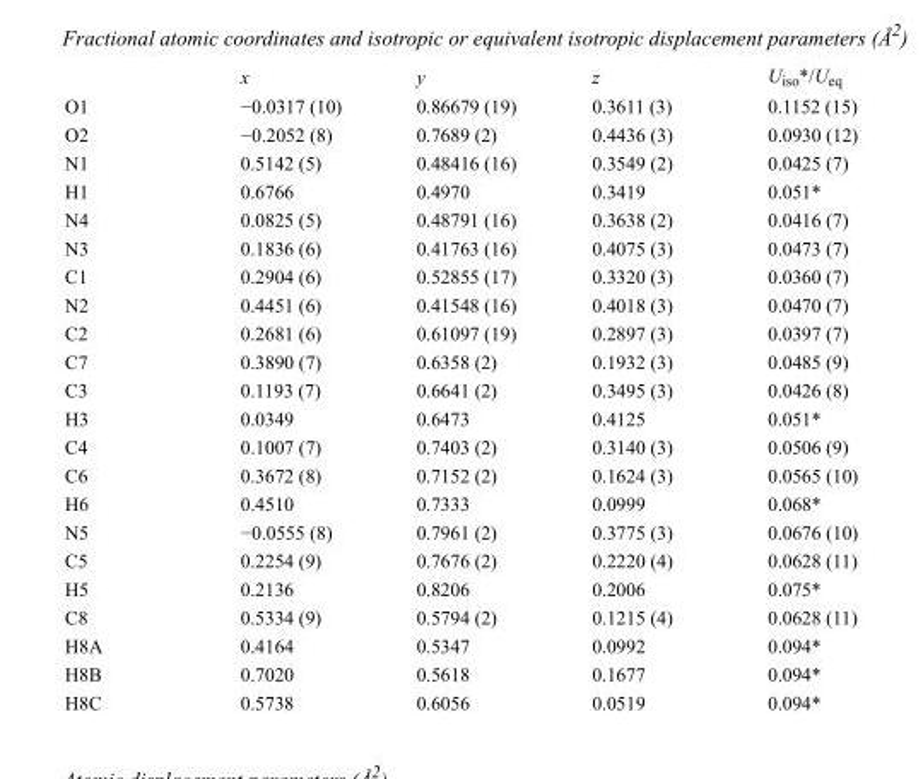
<table><thead><tr><td></td><td>x</td><td>y</td><td>z</td><td>U<sub>iso</sub>*/U<sub>eq</sub></td></tr></thead><tbody><tr><td>O1</td><td>−0.0317 (10)</td><td>0.86679 (19)</td><td>0.3611 (3)</td><td>0.1152 (15)</td></tr><tr><td>O2</td><td>−0.2052 (8)</td><td>0.7689 (2)</td><td>0.4436 (3)</td><td>0.0930 (12)</td></tr><tr><td>N1</td><td>0.5142 (5)</td><td>0.48416 (16)</td><td>0.3549 (2)</td><td>0.0425 (7)</td></tr><tr><td>H1</td><td>0.6766</td><td>0.4970</td><td>0.3419</td><td>0.051*</td></tr><tr><td>N4</td><td>0.0825 (5)</td><td>0.48791 (16)</td><td>0.3638 (2)</td><td>0.0416 (7)</td></tr><tr><td>N3</td><td>0.1836 (6)</td><td>0.41763 (16)</td><td>0.4075 (3)</td><td>0.0473 (7)</td></tr><tr><td>C1</td><td>0.2904 (6)</td><td>0.52855 (17)</td><td>0.3320 (3)</td><td>0.0360 (7)</td></tr><tr><td>N2</td><td>0.4451 (6)</td><td>0.41548 (16)</td><td>0.4018 (3)</td><td>0.0470 (7)</td></tr><tr><td>C2</td><td>0.2681 (6)</td><td>0.61097 (19)</td><td>0.2897 (3)</td><td>0.0397 (7)</td></tr><tr><td>C7</td><td>0.3890 (7)</td><td>0.6358 (2)</td><td>0.1932 (3)</td><td>0.0485 (9)</td></tr><tr><td>C3</td><td>0.1193 (7)</td><td>0.6641 (2)</td><td>0.3495 (3)</td><td>0.0426 (8)</td></tr><tr><td>H3</td><td>0.0349</td><td>0.6473</td><td>0.4125</td><td>0.051*</td></tr><tr><td>C4</td><td>0.1007 (7)</td><td>0.7403 (2)</td><td>0.3140 (3)</td><td>0.0506 (9)</td></tr><tr><td>C6</td><td>0.3672 (8)</td><td>0.7152 (2)</td><td>0.1624 (3)</td><td>0.0565 (10)</td></tr><tr><td>H6</td><td>0.4510</td><td>0.7333</td><td>0.0999</td><td>0.068*</td></tr><tr><td>N5</td><td>−0.0555 (8)</td><td>0.7961 (2)</td><td>0.3775 (3)</td><td>0.0676 (10)</td></tr><tr><td>C5</td><td>0.2254 (9)</td><td>0.7676 (2)</td><td>0.2220 (4)</td><td>0.0628 (11)</td></tr><tr><td>H5</td><td>0.2136</td><td>0.8206</td><td>0.2006</td><td>0.075*</td></tr><tr><td>C8</td><td>0.5334 (9)</td><td>0.5794 (2)</td><td>0.1215 (4)</td><td>0.0628 (11)</td></tr><tr><td>H8A</td><td>0.4164</td><td>0.5347</td><td>0.0992</td><td>0.094*</td></tr><tr><td>H8B</td><td>0.7020</td><td>0.5618</td><td>0.1677</td><td>0.094*</td></tr><tr><td>H8C</td><td>0.5738</td><td>0.6056</td><td>0.0519</td><td>0.094*</td></tr></tbody></table>